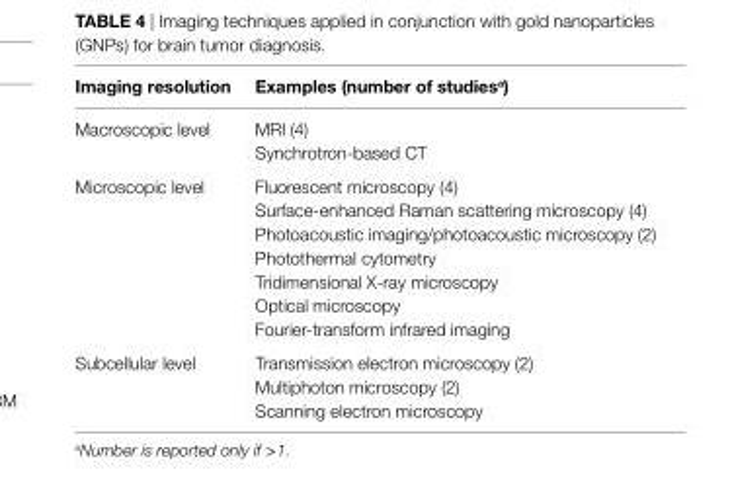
<table><thead><tr><td>imaging resolution</td><td>examples (number of studies<sup>a</sup>)</td></tr></thead><tbody><tr><td>Macroscopic level</td><td>MRI (4) Synchrotron-based CT</td></tr><tr><td>Microscopic level</td><td>Fluorescent microscopy (4) Surface-enhanced Raman scattering microscopy (4) Photoacoustic imaging/photoacoustic microscopy (2) Photothermal cytometry Tridimensional X-ray microscopy Optical microscopy Fourier-transform infrared imaging</td></tr><tr><td>Subcellular level</td><td>Transmission electron microscopy (2) Multiphoton microscopy (2) Scanning electron microscopy</td></tr></tbody></table>